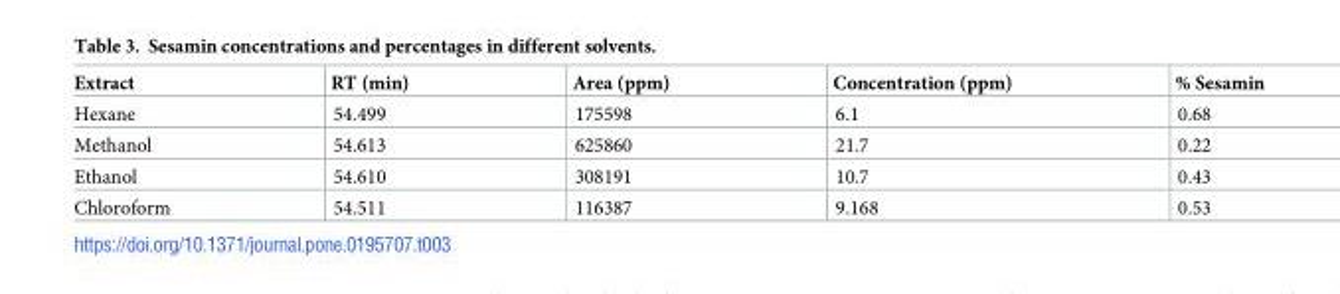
<table><thead><tr><td>Extract</td><td>RT (min)</td><td>Area (ppm)</td><td>Concentration (ppm)</td><td>% Sesamin</td></tr></thead><tbody><tr><td>Hexane</td><td>54.499</td><td>175598</td><td>6.1</td><td>0.68</td></tr><tr><td>Methanol</td><td>54.613</td><td>625860</td><td>21.7</td><td>0.22</td></tr><tr><td>Ethanol</td><td>54.610</td><td>308191</td><td>10.7</td><td>0.43</td></tr><tr><td>Chloroform</td><td>54.511</td><td>116387</td><td>9.168</td><td>0.53</td></tr></tbody></table>